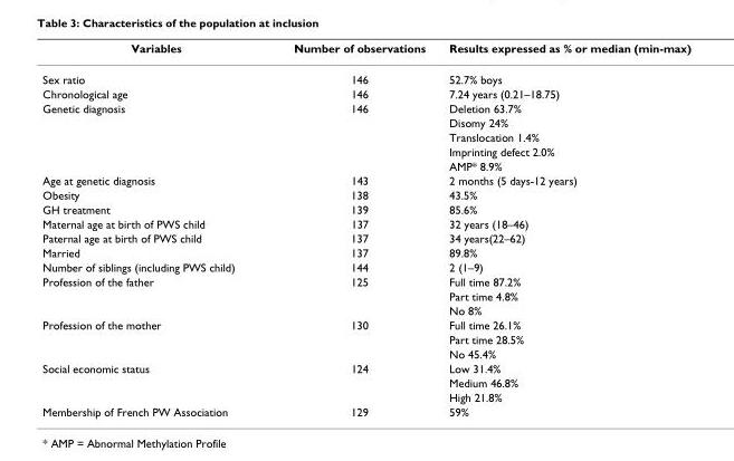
<table><thead><tr><td>Variables</td><td>Number of observations</td><td>Results expressed as % or median (min-max)</td></tr></thead><tbody><tr><td>Sex ratio</td><td>146</td><td>52.7% boys</td></tr><tr><td>Chronological age</td><td>146</td><td>7.24 years (0.21–18.75)</td></tr><tr><td rowspan="5">Genetic diagnosis</td><td>146</td><td>Deletion 63.7%</td></tr><tr><td></td><td>Disomy 24%</td></tr><tr><td></td><td>Translocation 1.4%</td></tr><tr><td></td><td>Imprinting defect 2.0%</td></tr><tr><td></td><td>AMP* 8.9%</td></tr><tr><td>Age at genetic diagnosis</td><td>143</td><td>2 months (5 days-12 years)</td></tr><tr><td>Obesity</td><td>138</td><td>43.5%</td></tr><tr><td>GH treatment</td><td>139</td><td>85.6%</td></tr><tr><td>Maternal age at birth of PWS child</td><td>137</td><td>32 years (18–46)</td></tr><tr><td>Paternal age at birth of PWS child</td><td>137</td><td>34 years(22–62)</td></tr><tr><td>Married</td><td>137</td><td>89.8%</td></tr><tr><td>Number of siblings (including PWS child)</td><td>144</td><td>2 (1–9)</td></tr><tr><td rowspan="3">Profession of the father</td><td>125</td><td>Full time 87.2%</td></tr><tr><td></td><td>Part time 4.8%</td></tr><tr><td></td><td>No 8%</td></tr><tr><td rowspan="3">Profession of the mother</td><td>130</td><td>Full time 26.1%</td></tr><tr><td></td><td>Part time 28.5%</td></tr><tr><td></td><td>No 45.4%</td></tr><tr><td rowspan="3">Social economic status</td><td>124</td><td>Low 31.4%</td></tr><tr><td></td><td>Medium 46.8%</td></tr><tr><td></td><td>High 21.8%</td></tr><tr><td>Membership of French PW Association</td><td>129</td><td>59%</td></tr></tbody></table>